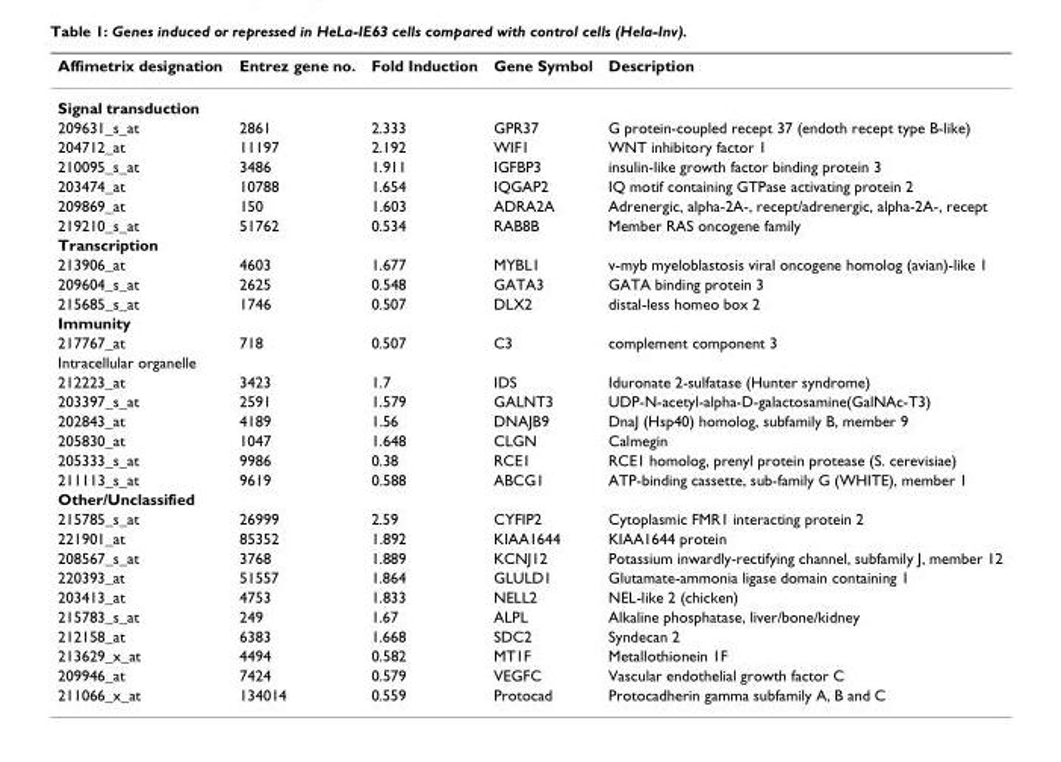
<table><thead><tr><td>Affimetrix designation</td><td>Entrez gene no.</td><td>Fold Induction</td><td>Gene Symbol</td><td>Description</td></tr></thead><tbody><tr><td colspan="5">Signal transduction</td></tr><tr><td>209631_s_at</td><td>2861</td><td>2.333</td><td>GPR37</td><td>G protein-coupled recept 37 (endoth recept type B-like)</td></tr><tr><td>204712_at</td><td>11197</td><td>2.192</td><td>WIF1</td><td>WNT inhibitory factor 1</td></tr><tr><td>210095_s_at</td><td>3486</td><td>1.911</td><td>IGFBP3</td><td>insulin-like growth factor binding protein 3</td></tr><tr><td>203474_at</td><td>10788</td><td>1.654</td><td>IQGAP2</td><td>IQ motif containing GTPase activating protein 2</td></tr><tr><td>209869_at</td><td>150</td><td>1.603</td><td>ADRA2A</td><td>Adrenergic, alpha-2A-, recept/adrenergic, alpha-2A-, recept</td></tr><tr><td>219210_s_at</td><td>51762</td><td>0.534</td><td>RAB8B</td><td>Member RAS oncogene family</td></tr><tr><td colspan="5">Transcription</td></tr><tr><td>213906_at</td><td>4603</td><td>1.677</td><td>MYBL1</td><td>v-myb myeloblastosis viral oncogene homolog (avian)-like 1</td></tr><tr><td>209604_s_at</td><td>2625</td><td>0.548</td><td>GATA3</td><td>GATA binding protein 3</td></tr><tr><td>215685_s_at</td><td>1746</td><td>0.507</td><td>DLX2</td><td>distal-less homeo box 2</td></tr><tr><td colspan="5">Immunity</td></tr><tr><td>217767_at</td><td>718</td><td>0.507</td><td>C3</td><td>complement component 3</td></tr><tr><td colspan="5">Intracellular organelle</td></tr><tr><td>212223_at</td><td>3423</td><td>1.7</td><td>IDS</td><td>Iduronate 2-sulfatase (Hunter syndrome)</td></tr><tr><td>203397_s_at</td><td>2591</td><td>1.579</td><td>GALNT3</td><td>UDP-N-acetyl-alpha-D-galactosamine(GalNAc-T3)</td></tr><tr><td>202843_at</td><td>4189</td><td>1.56</td><td>DNAJB9</td><td>DnaJ (Hsp40) homolog, subfamily B, member 9</td></tr><tr><td>205830_at</td><td>1047</td><td>1.648</td><td>CLGN</td><td>Calmegin</td></tr><tr><td>205333_s_at</td><td>9986</td><td>0.38</td><td>RCE1</td><td>RCE1 homolog, prenyl protein protease (S. cerevisiae)</td></tr><tr><td>211113_s_at</td><td>9619</td><td>0.588</td><td>ABCG1</td><td>ATP-binding cassette, sub-family G (WHITE), member 1</td></tr><tr><td colspan="5">Other/Unclassified</td></tr><tr><td>215785_s_at</td><td>26999</td><td>2.59</td><td>CYFIP2</td><td>Cytoplasmic FMR1 interacting protein 2</td></tr><tr><td>221901_at</td><td>85352</td><td>1.892</td><td>KIAA1644</td><td>KIAA1644 protein</td></tr><tr><td>208567_s_at</td><td>3768</td><td>1.889</td><td>KCNJ12</td><td>Potassium inwardly-rectifying channel, subfamily J, member 12</td></tr><tr><td>220393_at</td><td>51557</td><td>1.864</td><td>GLULD1</td><td>Glutamate-ammonia ligase domain containing 1</td></tr><tr><td>203413_at</td><td>4753</td><td>1.833</td><td>NELL2</td><td>NEL-like 2 (chicken)</td></tr><tr><td>215783_s_at</td><td>249</td><td>1.67</td><td>ALPL</td><td>Alkaline phosphatase, liver/bone/kidney</td></tr><tr><td>212158_at</td><td>6383</td><td>1.668</td><td>SDC2</td><td>Syndecan 2</td></tr><tr><td>213629_x_at</td><td>4494</td><td>0.582</td><td>MT1F</td><td>Metallothionein 1F</td></tr><tr><td>209946_at</td><td>7424</td><td>0.579</td><td>VEGFC</td><td>Vascular endothelial growth factor C</td></tr><tr><td>211066_x_at</td><td>134014</td><td>0.559</td><td>Protocad</td><td>Protocadherin gamma subfamily A, B and C</td></tr></tbody></table>